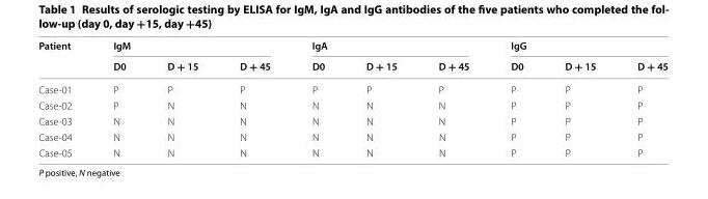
<table><thead><tr><td rowspan="2">Patient</td><td colspan="3">IgM</td><td colspan="3">IgA</td><td colspan="3">IgG</td></tr><tr><td>D0</td><td>D + 15</td><td>D + 45</td><td>D0</td><td>D + 15</td><td>D + 45</td><td>D0</td><td>D + 15</td><td>D + 45</td></tr></thead><tbody><tr><td>Case‑01</td><td>P</td><td>P</td><td>P</td><td>P</td><td>P</td><td>P</td><td>P</td><td>P</td><td>P</td></tr><tr><td>Case‑02</td><td>P</td><td>N</td><td>N</td><td>N</td><td>N</td><td>N</td><td>P</td><td>P</td><td>P</td></tr><tr><td>Case‑03</td><td>N</td><td>N</td><td>N</td><td>N</td><td>N</td><td>N</td><td>P</td><td>P</td><td>P</td></tr><tr><td>Case‑04</td><td>N</td><td>N</td><td>N</td><td>N</td><td>N</td><td>N</td><td>P</td><td>P</td><td>P</td></tr><tr><td>Case‑05</td><td>N</td><td>N</td><td>N</td><td>N</td><td>N</td><td>N</td><td>P</td><td>P</td><td>P</td></tr></tbody></table>